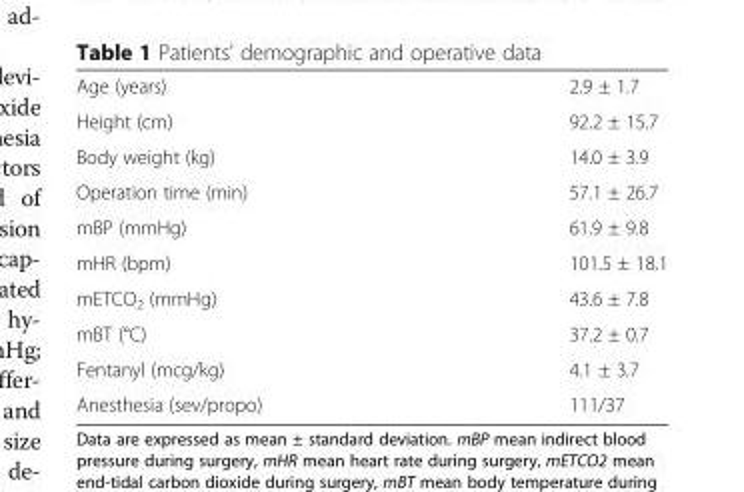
<table><tbody><tr><td>Age (years)</td><td>2.9 ± 1.7</td></tr><tr><td>Height (cm)</td><td>92.2 ± 15.7</td></tr><tr><td>Body weight (kg)</td><td>14.0 ± 3.9</td></tr><tr><td>Operation time (min)</td><td>57.1 ± 26.7</td></tr><tr><td>mBP (mmHg)</td><td>61.9 ± 9.8</td></tr><tr><td>mHR (bpm)</td><td>101.5 ± 18.1</td></tr><tr><td>mETCO<sub>2</sub> (mmHg)</td><td>43.6 ± 7.8</td></tr><tr><td>mBT (°C)</td><td>37.2 ± 0.7</td></tr><tr><td>Fentanyl (mcg/kg)</td><td>4.1 ± 3.7</td></tr><tr><td>Anesthesia (sev/propo)</td><td>111/37</td></tr></tbody></table>